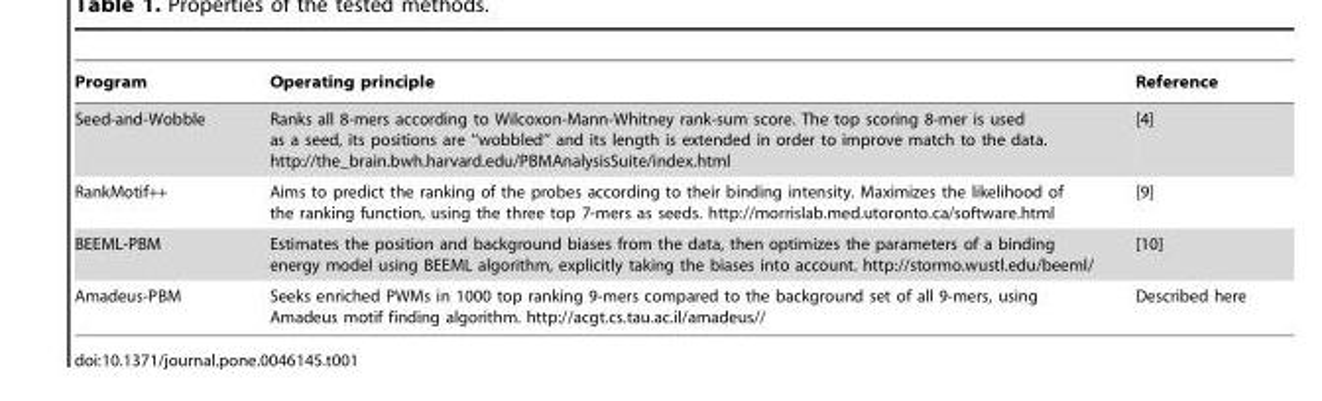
<table><thead><tr><td>Program</td><td>Operating principle</td><td>Reference</td></tr></thead><tbody><tr><td>Seed-and-Wobble</td><td>Ranks all 8-mers according to Wilcoxon-Mann-Whitney rank-sum score. The top scoring 8-mer is used as a seed, its positions are ‘‘wobbled’’ and its length is extended in order to improve match to the data. http://the_brain.bwh.harvard.edu/PBMAnalysisSuite/index.html</td><td>[4]</td></tr><tr><td>RankMotif++</td><td>Aims to predict the ranking of the probes according to their binding intensity. Maximizes the likelihood of the ranking function, using the three top 7-mers as seeds. http://morrislab.med.utoronto.ca/software.html</td><td>[9]</td></tr><tr><td>BEEML-PBM</td><td>Estimates the position and background biases from the data, then optimizes the parameters of a binding energy model using BEEML algorithm, explicitly taking the biases into account. http://stormo.wustl.edu/beeml/</td><td>[10]</td></tr><tr><td>Amadeus-PBM</td><td>Seeks enriched PWMs in 1000 top ranking 9-mers compared to the background set of all 9-mers, using Amadeus motif finding algorithm. http://acgt.cs.tau.ac.il/amadeus//</td><td>Described here</td></tr></tbody></table>